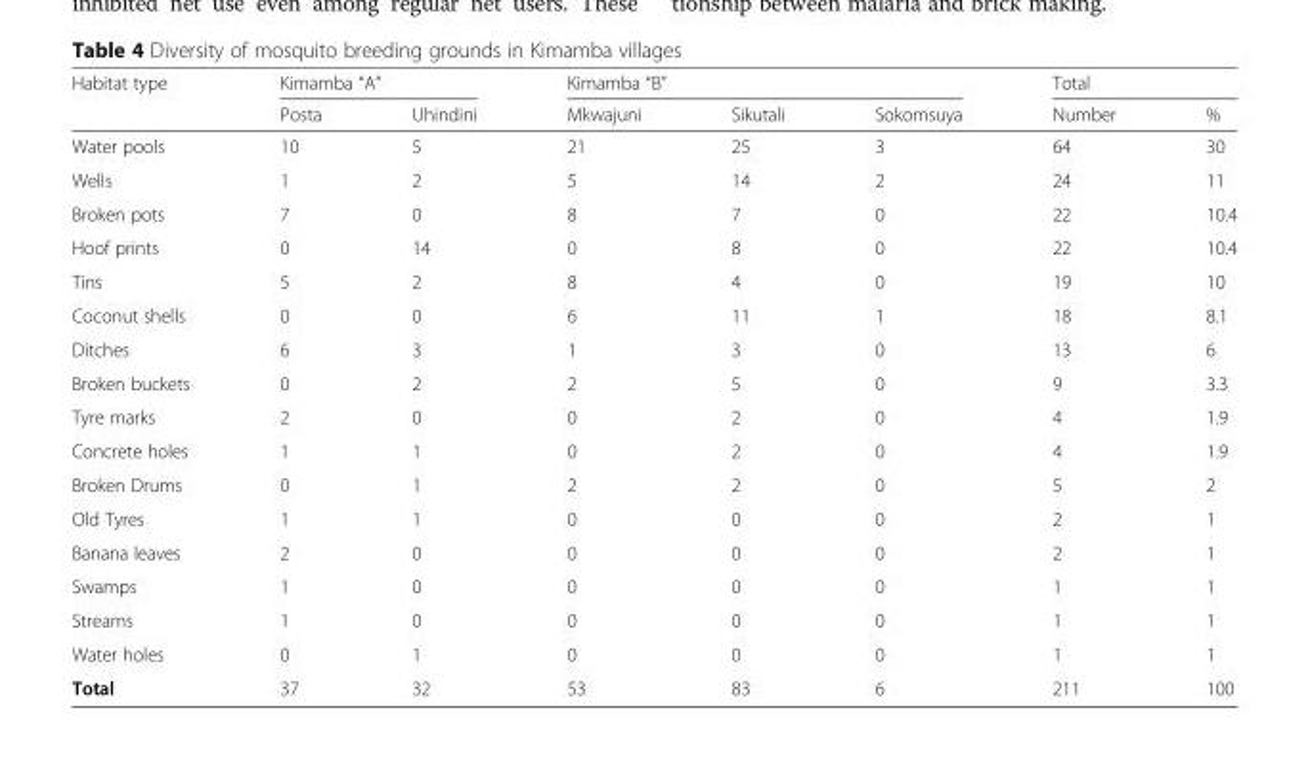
<table><thead><tr><td rowspan="2">Habitat type</td><td colspan="2">Kimamba “A”</td><td colspan="3">Kimamba “B”</td><td colspan="2">Total</td></tr><tr><td>Posta</td><td>Uhindini</td><td>Mkwajuni</td><td>Sikutali</td><td>Sokomsuya</td><td>Number</td><td>%</td></tr></thead><tbody><tr><td>Water pools</td><td>10</td><td>5</td><td>21</td><td>25</td><td>3</td><td>64</td><td>30</td></tr><tr><td>Wells</td><td>1</td><td>2</td><td>5</td><td>14</td><td>2</td><td>24</td><td>11</td></tr><tr><td>Broken pots</td><td>7</td><td>0</td><td>8</td><td>7</td><td>0</td><td>22</td><td>10.4</td></tr><tr><td>Hoof prints</td><td>0</td><td>14</td><td>0</td><td>8</td><td>0</td><td>22</td><td>10.4</td></tr><tr><td>Tins</td><td>5</td><td>2</td><td>8</td><td>4</td><td>0</td><td>19</td><td>10</td></tr><tr><td>Coconut shells</td><td>0</td><td>0</td><td>6</td><td>11</td><td>1</td><td>18</td><td>8.1</td></tr><tr><td>Ditches</td><td>6</td><td>3</td><td>1</td><td>3</td><td>0</td><td>13</td><td>6</td></tr><tr><td>Broken buckets</td><td>0</td><td>2</td><td>2</td><td>5</td><td>0</td><td>9</td><td>3.3</td></tr><tr><td>Tyre marks</td><td>2</td><td>0</td><td>0</td><td>2</td><td>0</td><td>4</td><td>1.9</td></tr><tr><td>Concrete holes</td><td>1</td><td>1</td><td>0</td><td>2</td><td>0</td><td>4</td><td>1.9</td></tr><tr><td>Broken Drums</td><td>0</td><td>1</td><td>2</td><td>2</td><td>0</td><td>5</td><td>2</td></tr><tr><td>Old Tyres</td><td>1</td><td>1</td><td>0</td><td>0</td><td>0</td><td>2</td><td>1</td></tr><tr><td>Banana leaves</td><td>2</td><td>0</td><td>0</td><td>0</td><td>0</td><td>2</td><td>1</td></tr><tr><td>Swamps</td><td>1</td><td>0</td><td>0</td><td>0</td><td>0</td><td>1</td><td>1</td></tr><tr><td>Streams</td><td>1</td><td>0</td><td>0</td><td>0</td><td>0</td><td>1</td><td>1</td></tr><tr><td>Water holes</td><td>0</td><td>1</td><td>0</td><td>0</td><td>0</td><td>1</td><td>1</td></tr><tr><td>Total</td><td>37</td><td>32</td><td>53</td><td>83</td><td>6</td><td>211</td><td>100</td></tr></tbody></table>